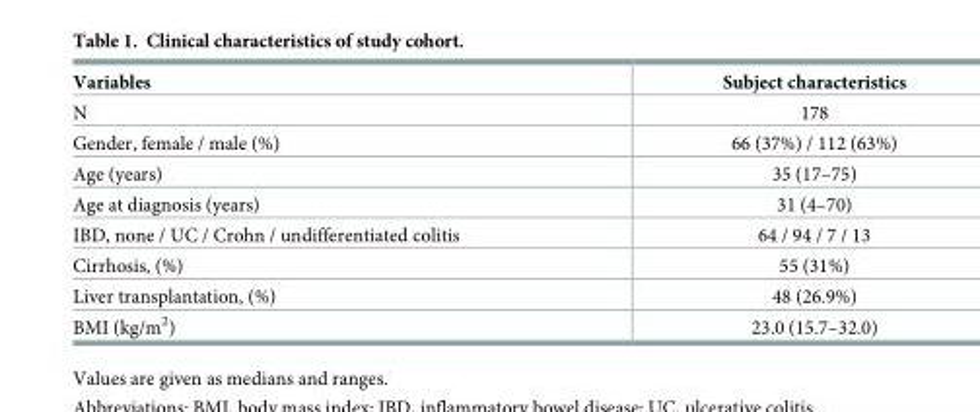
<table><thead><tr><td>Variables</td><td>Subject characteristics</td></tr></thead><tbody><tr><td>N</td><td>178</td></tr><tr><td>Gender, female / male (%)</td><td>66 (37%) / 112 (63%)</td></tr><tr><td>Age (years)</td><td>35 (17–75)</td></tr><tr><td>Age at diagnosis (years)</td><td>31 (4–70)</td></tr><tr><td>IBD, none / UC / Crohn / undifferentiated colitis</td><td>64 / 94 / 7 / 13</td></tr><tr><td>Cirrhosis, (%)</td><td>55 (31%)</td></tr><tr><td>Liver transplantation, (%)</td><td>48 (26.9%)</td></tr><tr><td>BMI (kg/m<sup>2</sup>)</td><td>23.0 (15.7–32.0)</td></tr></tbody></table>